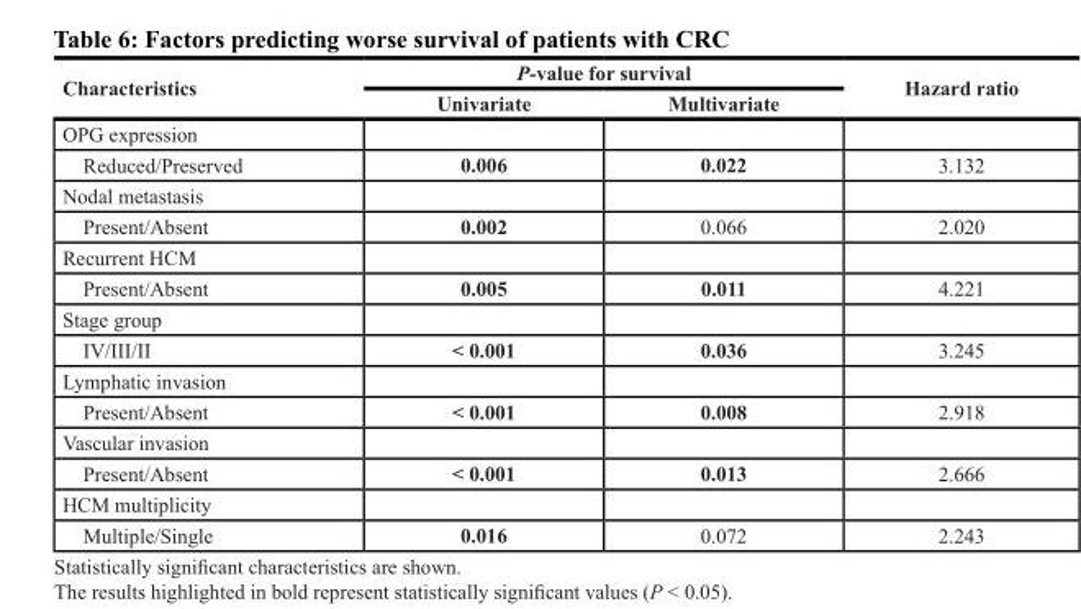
<table><thead><tr><td rowspan="2">Characteristics</td><td colspan="2">P-value for survival</td><td rowspan="2">Hazard ratio</td></tr><tr><td>Univariate</td><td>Multivariate</td></tr></thead><tbody><tr><td colspan="4">OPG expression</td></tr><tr><td>Reduced/Preserved</td><td>0.006</td><td>0.022</td><td>3.132</td></tr><tr><td colspan="4">Nodal metastasis</td></tr><tr><td>Present/Absent</td><td>0.002</td><td>0.066</td><td>2.020</td></tr><tr><td colspan="4">Recurrent HCM</td></tr><tr><td>Present/Absent</td><td>0.005</td><td>0.011</td><td>4.221</td></tr><tr><td colspan="4">Stage group</td></tr><tr><td>IV/III/II</td><td>&lt; 0.001</td><td>0.036</td><td>3.245</td></tr><tr><td colspan="4">Lymphatic invasion</td></tr><tr><td>Present/Absent</td><td>&lt; 0.001</td><td>0.008</td><td>2.918</td></tr><tr><td colspan="4">Vascular invasion</td></tr><tr><td>Present/Absent</td><td>&lt; 0.001</td><td>0.013</td><td>2.666</td></tr><tr><td colspan="4">HCM multiplicity</td></tr><tr><td>Multiple/Single</td><td>0.016</td><td>0.072</td><td>2.243</td></tr></tbody></table>